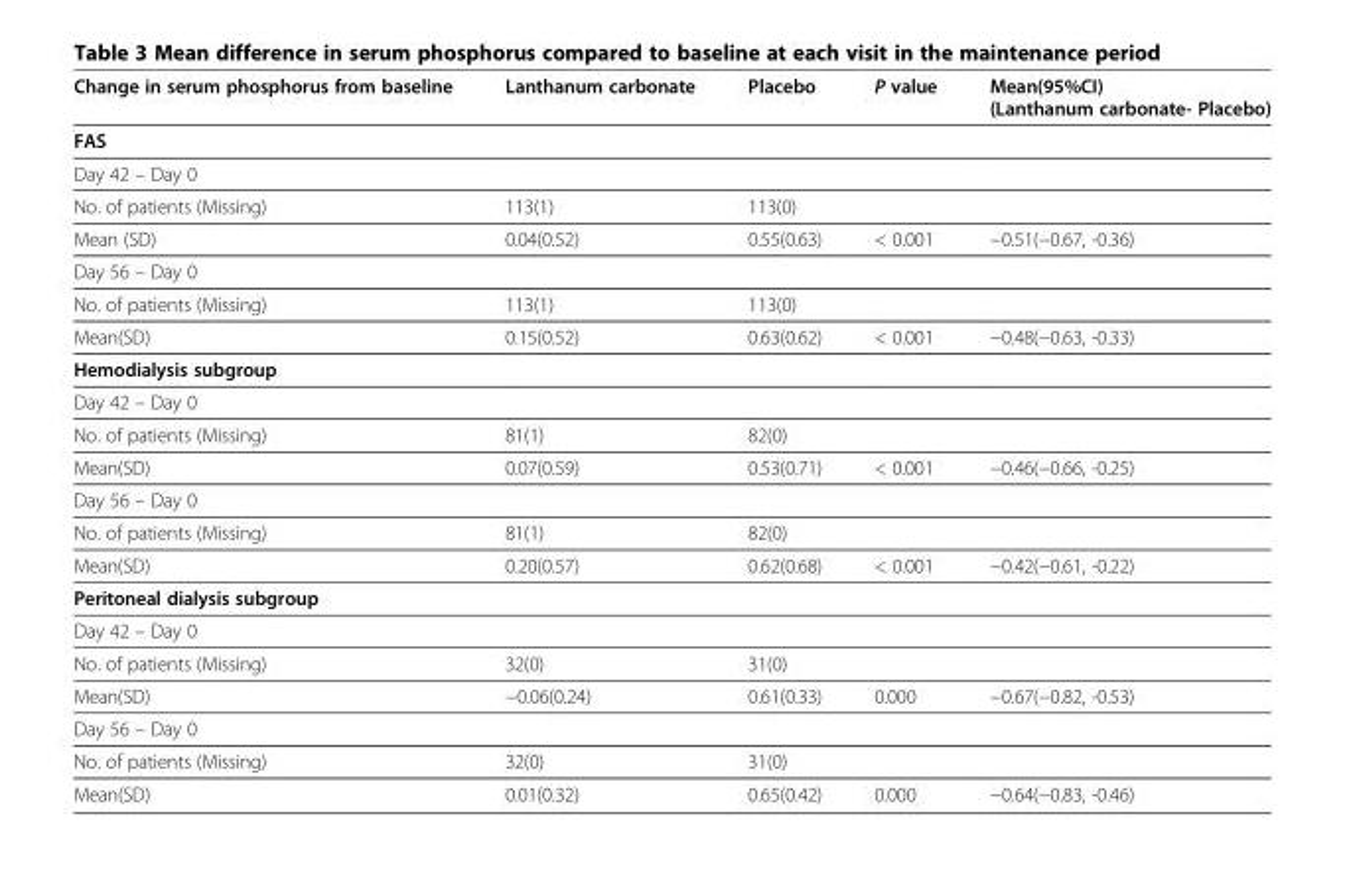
<table><thead><tr><td>Change in serum phosphorus from baseline</td><td>Lanthanum carbonate</td><td>Placebo</td><td>P value</td><td>Mean(95%CI) (Lanthanum carbonate- Placebo)</td></tr></thead><tbody><tr><td colspan="5">FAS</td></tr><tr><td colspan="5">Day 42 – Day 0</td></tr><tr><td>No. of patients (Missing)</td><td>113(1)</td><td>113(0)</td><td></td><td></td></tr><tr><td>Mean (SD)</td><td>0.04(0.52)</td><td>0.55(0.63)</td><td>&lt; 0.001</td><td>−0.51(−0.67, -0.36)</td></tr><tr><td colspan="5">Day 56 – Day 0</td></tr><tr><td>No. of patients (Missing)</td><td>113(1)</td><td>113(0)</td><td></td><td></td></tr><tr><td>Mean(SD)</td><td>0.15(0.52)</td><td>0.63(0.62)</td><td>&lt; 0.001</td><td>−0.48(−0.63, -0.33)</td></tr><tr><td colspan="5">Hemodialysis subgroup</td></tr><tr><td colspan="5">Day 42 – Day 0</td></tr><tr><td>No. of patients (Missing)</td><td>81(1)</td><td>82(0)</td><td></td><td></td></tr><tr><td>Mean(SD)</td><td>0.07(0.59)</td><td>0.53(0.71)</td><td>&lt; 0.001</td><td>−0.46(−0.66, -0.25)</td></tr><tr><td colspan="5">Day 56 – Day 0</td></tr><tr><td>No. of patients (Missing)</td><td>81(1)</td><td>82(0)</td><td></td><td></td></tr><tr><td>Mean(SD)</td><td>0.20(0.57)</td><td>0.62(0.68)</td><td>&lt; 0.001</td><td>−0.42(−0.61, -0.22)</td></tr><tr><td colspan="5">Peritoneal dialysis subgroup</td></tr><tr><td colspan="5">Day 42 – Day 0</td></tr><tr><td>No. of patients (Missing)</td><td>32(0)</td><td>31(0)</td><td></td><td></td></tr><tr><td>Mean(SD)</td><td>−0.06(0.24)</td><td>0.61(0.33)</td><td>0.000</td><td>−0.67(−0.82, -0.53)</td></tr><tr><td colspan="5">Day 56 – Day 0</td></tr><tr><td>No. of patients (Missing)</td><td>32(0)</td><td>31(0)</td><td></td><td></td></tr><tr><td>Mean(SD)</td><td>0.01(0.32)</td><td>0.65(0.42)</td><td>0.000</td><td>−0.64(−0.83, -0.46)</td></tr></tbody></table>